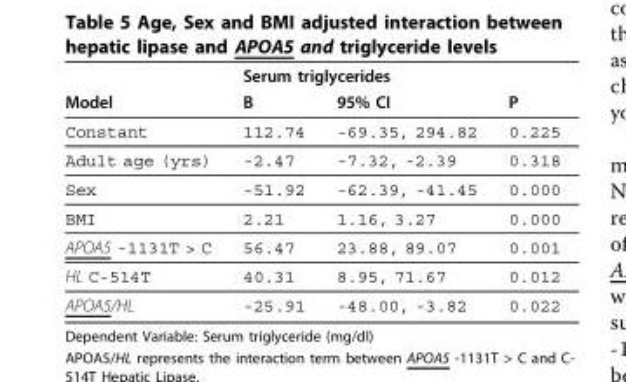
<table><thead><tr><td rowspan="2">Model</td><td colspan="3">Serum triglycerides</td></tr><tr><td>B</td><td>95% CI</td><td>P</td></tr></thead><tbody><tr><td>Constant</td><td>112.74</td><td>-69.35, 294.82</td><td>0.225</td></tr><tr><td>Adult age (yrs)</td><td>-2.47</td><td>-7.32, -2.39</td><td>0.318</td></tr><tr><td>Sex</td><td>-51.92</td><td>-62.39, -41.45</td><td>0.000</td></tr><tr><td>BMI</td><td>2.21</td><td>1.16, 3.27</td><td>0.000</td></tr><tr><td>APOA5 -1131T &gt; C</td><td>56.47</td><td>23.88, 89.07</td><td>0.001</td></tr><tr><td>HL C-514T</td><td>40.31</td><td>8.95, 71.67</td><td>0.012</td></tr><tr><td>APOA5/HL</td><td>-25.91</td><td>-48.00, -3.82</td><td>0.022</td></tr></tbody></table>